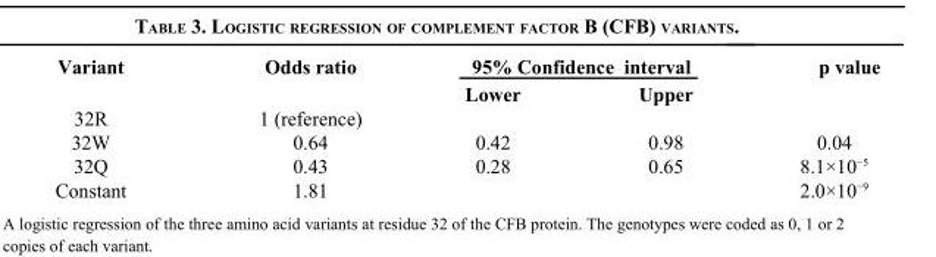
<table><thead><tr><td rowspan="2">Variant</td><td rowspan="2">Odds ratio</td><td colspan="2">95% Confidence interval</td><td rowspan="2">p value</td></tr><tr><td>Lower</td><td>Upper</td></tr></thead><tbody><tr><td>32R</td><td>1 (reference)</td><td></td><td></td><td></td></tr><tr><td>32W</td><td>0.64</td><td>0.42</td><td>0.98</td><td>0.04</td></tr><tr><td>32Q</td><td>0.43</td><td>0.28</td><td>0.65</td><td>8.1×10<sup>−5</sup></td></tr><tr><td>Constant</td><td>1.81</td><td></td><td></td><td>2.0×10<sup>−9</sup></td></tr></tbody></table>